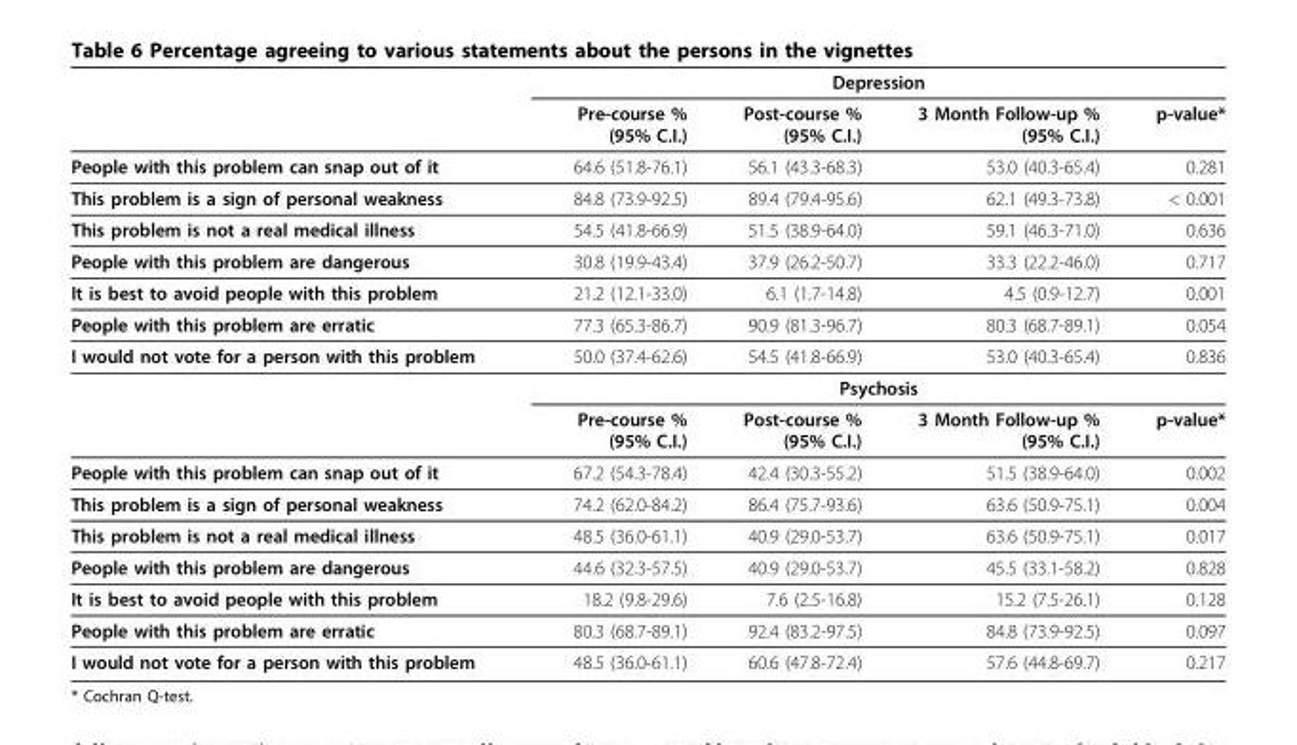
<table><thead><tr><td rowspan="2"></td><td colspan="4">Depression</td></tr><tr><td>Pre-course % (95% C.I.)</td><td>Post-course % (95% C.I.)</td><td>3 Month Follow-up % (95% C.I.)</td><td>p-value*</td></tr></thead><tbody><tr><td>People with this problem can snap out of it</td><td>64.6 (51.8-76.1)</td><td>56.1 (43.3-68.3)</td><td>53.0 (40.3-65.4)</td><td>0.281</td></tr><tr><td>This problem is a sign of personal weakness</td><td>84.8 (73.9-92.5)</td><td>89.4 (79.4-95.6)</td><td>62.1 (49.3-73.8)</td><td>&lt; 0.001</td></tr><tr><td>This problem is not a real medical illness</td><td>54.5 (41.8-66.9)</td><td>51.5 (38.9-64.0)</td><td>59.1 (46.3-71.0)</td><td>0.636</td></tr><tr><td>People with this problem are dangerous</td><td>30.8 (19.9-43.4)</td><td>37.9 (26.2-50.7)</td><td>33.3 (22.2-46.0)</td><td>0.717</td></tr><tr><td>It is best to avoid people with this problem</td><td>21.2 (12.1-33.0)</td><td>6.1 (1.7-14.8)</td><td>4.5 (0.9-12.7)</td><td>0.001</td></tr><tr><td>People with this problem are erratic</td><td>77.3 (65.3-86.7)</td><td>90.9 (81.3-96.7)</td><td>80.3 (68.7-89.1)</td><td>0.054</td></tr><tr><td rowspan="3">I would not vote for a person with this problem</td><td>50.0 (37.4-62.6)</td><td>54.5 (41.8-66.9)</td><td>53.0 (40.3-65.4)</td><td>0.836</td></tr><tr><td colspan="4">Psychosis</td></tr><tr><td>Pre-course % (95% C.I.)</td><td>Post-course % (95% C.I.)</td><td>3 Month Follow-up % (95% C.I.)</td><td>p-value*</td></tr><tr><td>People with this problem can snap out of it</td><td>67.2 (54.3-78.4)</td><td>42.4 (30.3-55.2)</td><td>51.5 (38.9-64.0)</td><td>0.002</td></tr><tr><td>This problem is a sign of personal weakness</td><td>74.2 (62.0-84.2)</td><td>86.4 (75.7-93.6)</td><td>63.6 (50.9-75.1)</td><td>0.004</td></tr><tr><td>This problem is not a real medical illness</td><td>48.5 (36.0-61.1)</td><td>40.9 (29.0-53.7)</td><td>63.6 (50.9-75.1)</td><td>0.017</td></tr><tr><td>People with this problem are dangerous</td><td>44.6 (32.3-57.5)</td><td>40.9 (29.0-53.7)</td><td>45.5 (33.1-58.2)</td><td>0.828</td></tr><tr><td>It is best to avoid people with this problem</td><td>18.2 (9.8-29.6)</td><td>7.6 (2.5-16.8)</td><td>15.2 (7.5-26.1)</td><td>0.128</td></tr><tr><td>People with this problem are erratic</td><td>80.3 (68.7-89.1)</td><td>92.4 (83.2-97.5)</td><td>84.8 (73.9-92.5)</td><td>0.097</td></tr><tr><td>I would not vote for a person with this problem</td><td>48.5 (36.0-61.1)</td><td>60.6 (47.8-72.4)</td><td>57.6 (44.8-69.7)</td><td>0.217</td></tr></tbody></table>